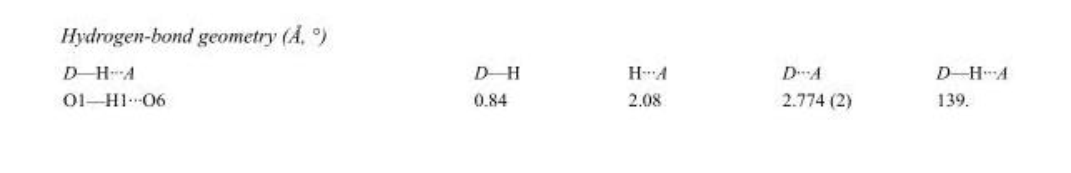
<table><tbody><tr><td>D—H···A</td><td>D—H</td><td>H···A</td><td>D···A</td><td>D—H···A</td></tr><tr><td>O1—H1···O6</td><td>0.84</td><td>2.08</td><td>2.774 (2)</td><td>139.</td></tr></tbody></table>